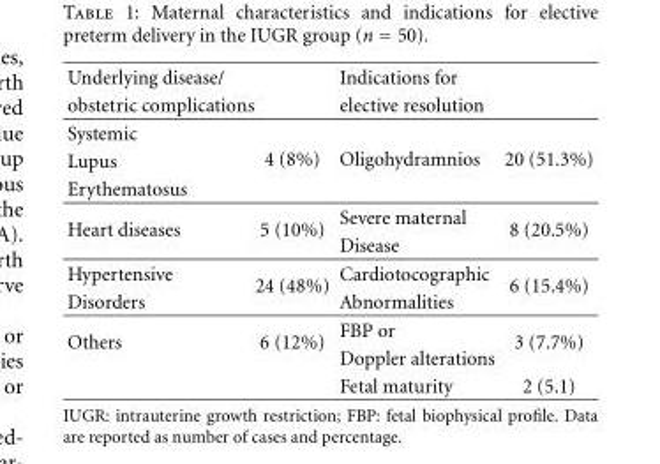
<table><thead><tr><td rowspan="2">Underlying disease/ obstetric complications</td><td rowspan="2"></td><td rowspan="2">Indications for elective resolution</td><td rowspan="2"></td></tr><tr></tr></thead><tbody><tr><td>Systemic</td><td rowspan="3">4 (8%)</td><td rowspan="3">Oligohydramnios</td><td rowspan="3">20 (51.3%)</td></tr><tr><td>Lupus</td></tr><tr><td>Erythematosus</td></tr><tr><td rowspan="2">Heart diseases</td><td rowspan="2">5 (10%)</td><td>Severe maternal</td><td rowspan="2">8 (20.5%)</td></tr><tr><td>Disease</td></tr><tr><td>Hypertensive</td><td rowspan="2">24 (48%)</td><td>Cardiotocographic</td><td rowspan="2">6 (15.4%)</td></tr><tr><td>Disorders</td><td>Abnormalities</td></tr><tr><td rowspan="3">Others</td><td rowspan="2">6 (12%)</td><td>FBP or</td><td rowspan="2">3 (7.7%)</td></tr><tr><td>Doppler alterations</td></tr><tr><td></td><td>Fetal maturity</td><td>2 (5.1)</td></tr></tbody></table>